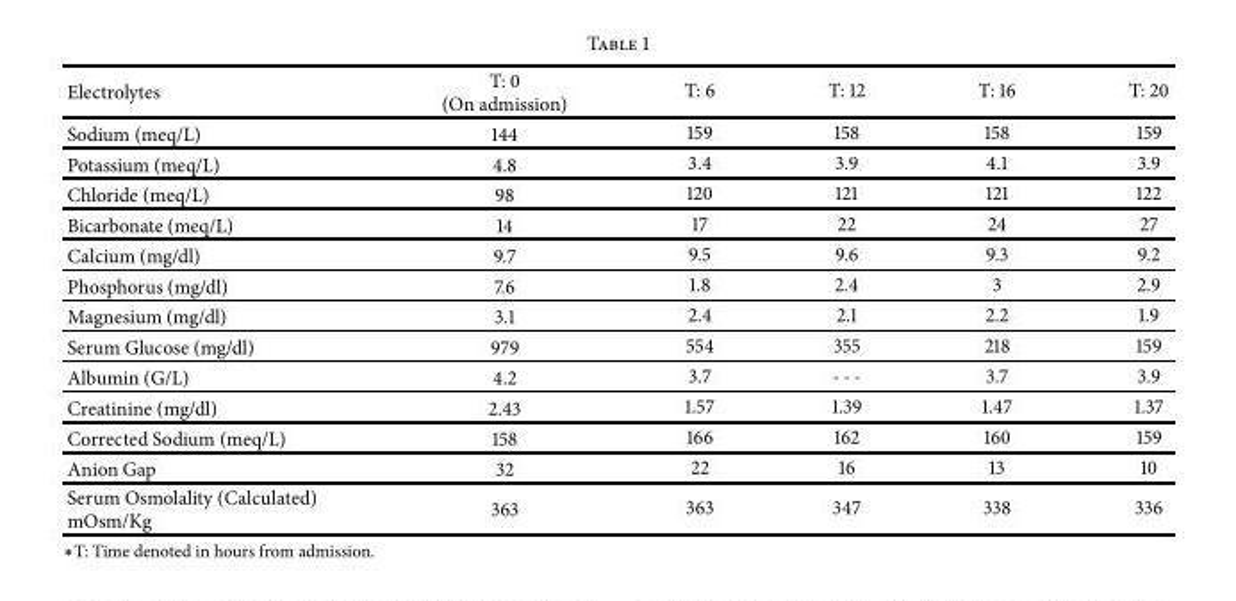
<table><tbody><tr><td>Electrolytes</td><td>T: 0 (On admission)</td><td>T: 6</td><td>T: 12</td><td>T: 16</td><td>T: 20</td></tr><tr><td>Sodium (meq/L)</td><td>144</td><td>159</td><td>158</td><td>158</td><td>159</td></tr><tr><td>Potassium (meq/L)</td><td>4.8</td><td>3.4</td><td>3.9</td><td>4.1</td><td>3.9</td></tr><tr><td>Chloride (meq/L)</td><td>98</td><td>120</td><td>121</td><td>121</td><td>122</td></tr><tr><td>Bicarbonate (meq/L)</td><td>14</td><td>17</td><td>22</td><td>24</td><td>27</td></tr><tr><td>Calcium (mg/dl)</td><td>9.7</td><td>9.5</td><td>9.6</td><td>9.3</td><td>9.2</td></tr><tr><td>Phosphorus (mg/dl)</td><td>7.6</td><td>1.8</td><td>2.4</td><td>3</td><td>2.9</td></tr><tr><td>Magnesium (mg/dl)</td><td>3.1</td><td>2.4</td><td>2.1</td><td>2.2</td><td>1.9</td></tr><tr><td>Serum Glucose (mg/dl)</td><td>979</td><td>554</td><td>355</td><td>218</td><td>159</td></tr><tr><td>Albumin (G/L)</td><td>4.2</td><td>3.7</td><td>- - -</td><td>3.7</td><td>3.9</td></tr><tr><td>Creatinine (mg/dl)</td><td>2.43</td><td>1.57</td><td>1.39</td><td>1.47</td><td>1.37</td></tr><tr><td>Corrected Sodium (meq/L)</td><td>158</td><td>166</td><td>162</td><td>160</td><td>159</td></tr><tr><td>Anion Gap</td><td>32</td><td>22</td><td>16</td><td>13</td><td>10</td></tr><tr><td>Serum Osmolality (Calculated) mOsm/Kg</td><td>363</td><td>363</td><td>347</td><td>338</td><td>336</td></tr></tbody></table>